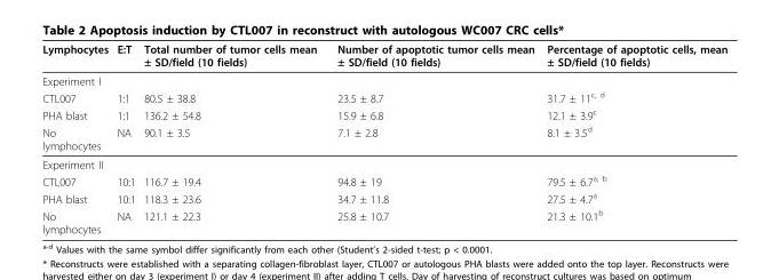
<table><thead><tr><td>Lymphocytes</td><td>E:T</td><td>Total number of tumor cells mean ± SD/field (10 fields)</td><td>Number of apoptotic tumor cells mean ± SD/field (10 fields)</td><td>Percentage of apoptotic cells, mean ± SD/field (10 fields)</td></tr></thead><tbody><tr><td colspan="5">Experiment I</td></tr><tr><td>CTL007</td><td>1:1</td><td>80.5 ± 38.8</td><td>23.5 ± 8.7</td><td>31.7 ± 11<sup>c, d</sup></td></tr><tr><td>PHA blast</td><td>1:1</td><td>136.2 ± 54.8</td><td>15.9 ± 6.8</td><td>12.1 ± 3.9<sup>c</sup></td></tr><tr><td>No lymphocytes</td><td>NA</td><td>90.1 ± 3.5</td><td>7.1 ± 2.8</td><td>8.1 ± 3.5<sup>d</sup></td></tr><tr><td colspan="5">Experiment II</td></tr><tr><td>CTL007</td><td>10:1</td><td>116.7 ± 19.4</td><td>94.8 ± 19</td><td>79.5 ± 6.7<sup>a, b</sup></td></tr><tr><td>PHA blast</td><td>10:1</td><td>118.3 ± 23.6</td><td>34.7 ± 11.8</td><td>27.5 ± 4.7<sup>a</sup></td></tr><tr><td>No lymphocytes</td><td>NA</td><td>121.1 ± 22.3</td><td>25.8 ± 10.7</td><td>21.3 ± 10.1<sup>b</sup></td></tr></tbody></table>